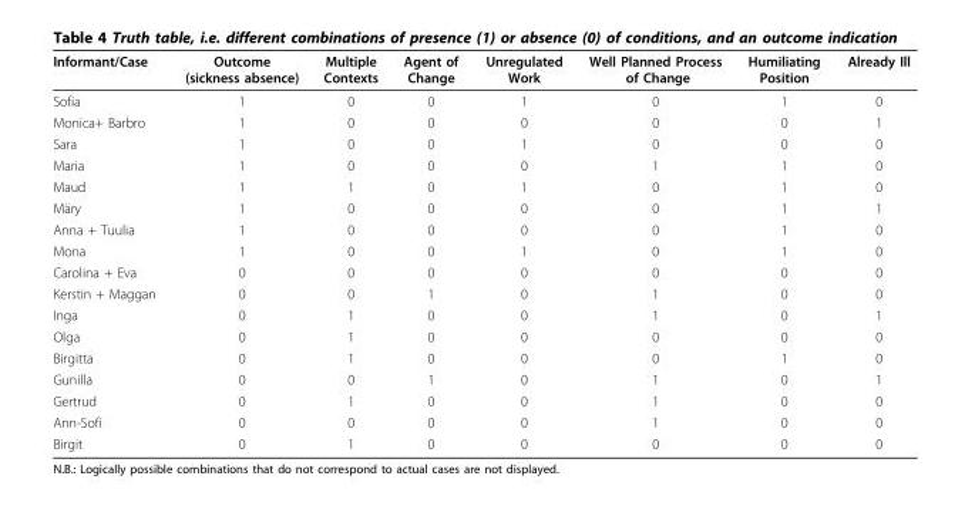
<table><thead><tr><td>Informant/Case</td><td>Outcome (sickness absence)</td><td>Multiple Contexts</td><td>Agent of Change</td><td>Unregulated Work</td><td>Well Planned Process of Change</td><td>Humiliating Position</td><td>Already Ill</td></tr></thead><tbody><tr><td>Sofia</td><td>1</td><td>0</td><td>0</td><td>1</td><td>0</td><td>1</td><td>0</td></tr><tr><td>Monica+ Barbro</td><td>1</td><td>0</td><td>0</td><td>0</td><td>0</td><td>0</td><td>1</td></tr><tr><td>Sara</td><td>1</td><td>0</td><td>0</td><td>1</td><td>0</td><td>0</td><td>0</td></tr><tr><td>Maria</td><td>1</td><td>0</td><td>0</td><td>0</td><td>1</td><td>1</td><td>0</td></tr><tr><td>Maud</td><td>1</td><td>1</td><td>0</td><td>1</td><td>0</td><td>1</td><td>0</td></tr><tr><td>Märy</td><td>1</td><td>0</td><td>0</td><td>0</td><td>0</td><td>1</td><td>1</td></tr><tr><td>Anna + Tuulia</td><td>1</td><td>0</td><td>0</td><td>0</td><td>0</td><td>1</td><td>0</td></tr><tr><td>Mona</td><td>1</td><td>0</td><td>0</td><td>1</td><td>0</td><td>1</td><td>0</td></tr><tr><td>Carolina + Eva</td><td>0</td><td>0</td><td>0</td><td>0</td><td>0</td><td>0</td><td>0</td></tr><tr><td>Kerstin + Maggan</td><td>0</td><td>0</td><td>1</td><td>0</td><td>1</td><td>0</td><td>0</td></tr><tr><td>Inga</td><td>0</td><td>1</td><td>0</td><td>0</td><td>1</td><td>0</td><td>1</td></tr><tr><td>Olga</td><td>0</td><td>1</td><td>0</td><td>0</td><td>0</td><td>0</td><td>0</td></tr><tr><td>Birgitta</td><td>0</td><td>1</td><td>0</td><td>0</td><td>0</td><td>1</td><td>0</td></tr><tr><td>Gunilla</td><td>0</td><td>0</td><td>1</td><td>0</td><td>1</td><td>0</td><td>1</td></tr><tr><td>Gertrud</td><td>0</td><td>1</td><td>0</td><td>0</td><td>1</td><td>0</td><td>0</td></tr><tr><td>Ann-Sofi</td><td>0</td><td>0</td><td>0</td><td>0</td><td>1</td><td>0</td><td>0</td></tr><tr><td>Birgit</td><td>0</td><td>1</td><td>0</td><td>0</td><td>0</td><td>0</td><td>0</td></tr></tbody></table>